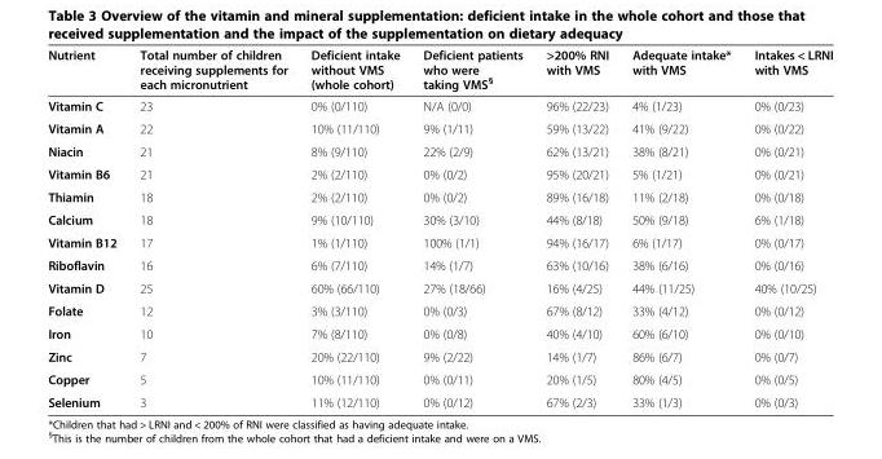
<table><thead><tr><td>Nutrient</td><td>Total number of children receiving supplements for each micronutrient</td><td>Deficient intake without VMS (whole cohort)</td><td>Deficient patients who were taking VMS<sup>§</sup></td><td>&gt;200% RNI with VMS</td><td>Adequate intake* with VMS</td><td>Intakes &lt; LRNI with VMS</td></tr></thead><tbody><tr><td>Vitamin C</td><td>23</td><td>0% (0/110)</td><td>N/A (0/0)</td><td>96% (22/23)</td><td>4% (1/23)</td><td>0% (0/23)</td></tr><tr><td>Vitamin A</td><td>22</td><td>10% (11/110)</td><td>9% (1/11)</td><td>59% (13/22)</td><td>41% (9/22)</td><td>0% (0/22)</td></tr><tr><td>Niacin</td><td>21</td><td>8% (9/110)</td><td>22% (2/9)</td><td>62% (13/21)</td><td>38% (8/21)</td><td>0% (0/21)</td></tr><tr><td>Vitamin B6</td><td>21</td><td>2% (2/110)</td><td>0% (0/2)</td><td>95% (20/21)</td><td>5% (1/21)</td><td>0% (0/21)</td></tr><tr><td>Thiamin</td><td>18</td><td>2% (2/110)</td><td>0% (0/2)</td><td>89% (16/18)</td><td>11% (2/18)</td><td>0% (0/18)</td></tr><tr><td>Calcium</td><td>18</td><td>9% (10/110)</td><td>30% (3/10)</td><td>44% (8/18)</td><td>50% (9/18)</td><td>6% (1/18)</td></tr><tr><td>Vitamin B12</td><td>17</td><td>1% (1/110)</td><td>100% (1/1)</td><td>94% (16/17)</td><td>6% (1/17)</td><td>0% (0/17)</td></tr><tr><td>Riboflavin</td><td>16</td><td>6% (7/110)</td><td>14% (1/7)</td><td>63% (10/16)</td><td>38% (6/16)</td><td>0% (0/16)</td></tr><tr><td>Vitamin D</td><td>25</td><td>60% (66/110)</td><td>27% (18/66)</td><td>16% (4/25)</td><td>44% (11/25)</td><td>40% (10/25)</td></tr><tr><td>Folate</td><td>12</td><td>3% (3/110)</td><td>0% (0/3)</td><td>67% (8/12)</td><td>33% (4/12)</td><td>0% (0/12)</td></tr><tr><td>Iron</td><td>10</td><td>7% (8/110)</td><td>0% (0/8)</td><td>40% (4/10)</td><td>60% (6/10)</td><td>0% (0/10)</td></tr><tr><td>Zinc</td><td>7</td><td>20% (22/110)</td><td>9% (2/22)</td><td>14% (1/7)</td><td>86% (6/7)</td><td>0% (0/7)</td></tr><tr><td>Copper</td><td>5</td><td>10% (11/110)</td><td>0% (0/11)</td><td>20% (1/5)</td><td>80% (4/5)</td><td>0% (0/5)</td></tr><tr><td>Selenium</td><td>3</td><td>11% (12/110)</td><td>0% (0/12)</td><td>67% (2/3)</td><td>33% (1/3)</td><td>0% (0/3)</td></tr></tbody></table>